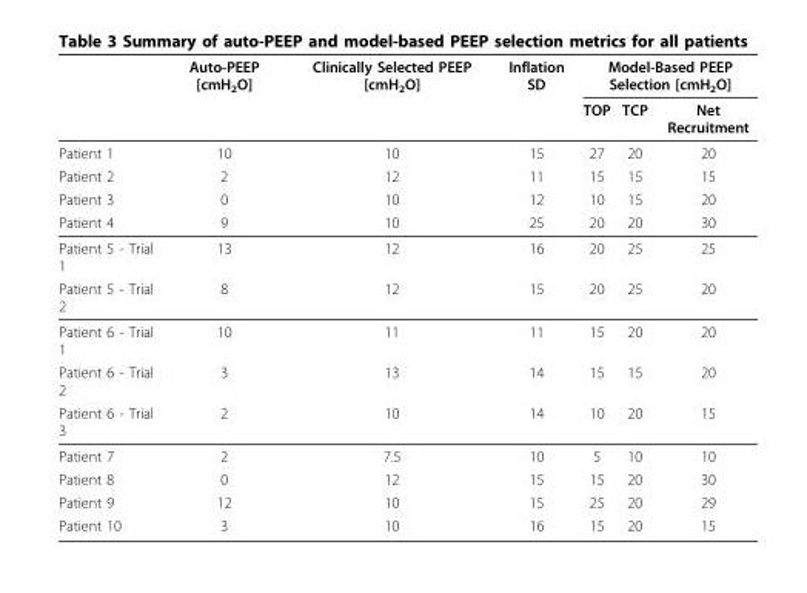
<table><thead><tr><td rowspan="2"></td><td rowspan="2">Auto-PEEP [cmH<sub>2</sub>O]</td><td rowspan="2">Clinically Selected PEEP [cmH<sub>2</sub>O]</td><td rowspan="2">Inflation SD</td><td colspan="3">Model-Based PEEP Selection [cmH<sub>2</sub>O]</td></tr><tr><td>TOP</td><td>TCP</td><td>Net Recruitment</td></tr></thead><tbody><tr><td>Patient 1</td><td>10</td><td>10</td><td>15</td><td>27</td><td>20</td><td>20</td></tr><tr><td>Patient 2</td><td>2</td><td>12</td><td>11</td><td>15</td><td>15</td><td>15</td></tr><tr><td>Patient 3</td><td>0</td><td>10</td><td>12</td><td>10</td><td>15</td><td>20</td></tr><tr><td>Patient 4</td><td>9</td><td>10</td><td>25</td><td>20</td><td>20</td><td>30</td></tr><tr><td>Patient 5 - Trial 1</td><td>13</td><td>12</td><td>16</td><td>20</td><td>25</td><td>25</td></tr><tr><td>Patient 5 - Trial 2</td><td>8</td><td>12</td><td>15</td><td>20</td><td>25</td><td>20</td></tr><tr><td>Patient 6 - Trial 1</td><td>10</td><td>11</td><td>11</td><td>15</td><td>20</td><td>20</td></tr><tr><td>Patient 6 - Trial 2</td><td>3</td><td>13</td><td>14</td><td>15</td><td>15</td><td>20</td></tr><tr><td>Patient 6 - Trial 3</td><td>2</td><td>10</td><td>14</td><td>10</td><td>20</td><td>15</td></tr><tr><td>Patient 7</td><td>2</td><td>7.5</td><td>10</td><td>5</td><td>10</td><td>10</td></tr><tr><td>Patient 8</td><td>0</td><td>12</td><td>15</td><td>15</td><td>20</td><td>30</td></tr><tr><td>Patient 9</td><td>12</td><td>10</td><td>15</td><td>25</td><td>20</td><td>29</td></tr><tr><td>Patient 10</td><td>3</td><td>10</td><td>16</td><td>15</td><td>20</td><td>15</td></tr></tbody></table>